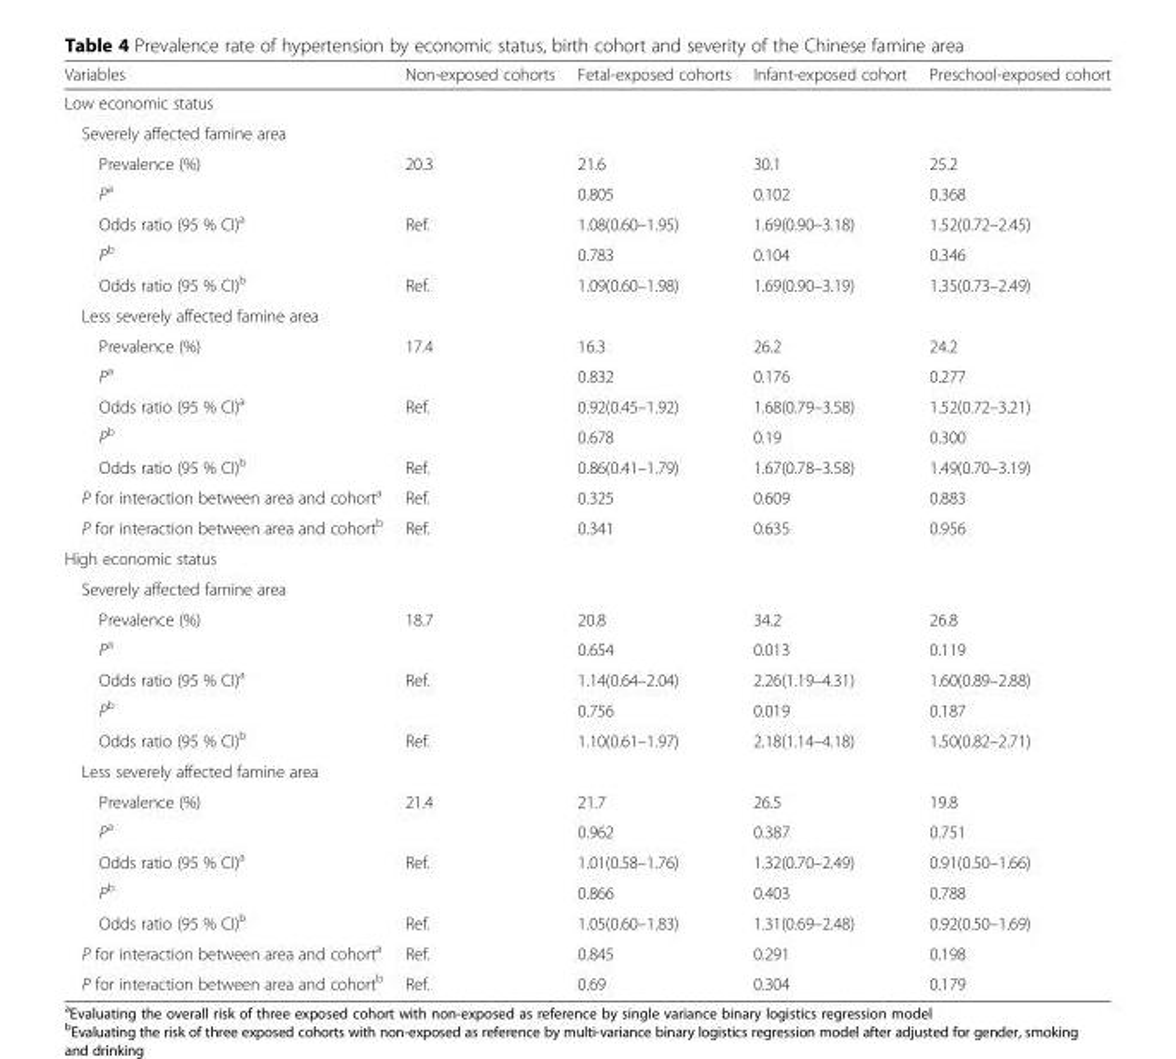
<table><thead><tr><td>Variables</td><td>Non-exposed cohorts</td><td>Fetal-exposed cohorts</td><td>Infant-exposed cohort</td><td>Preschool-exposed cohort</td></tr></thead><tbody><tr><td colspan="5">Low economic status</td></tr><tr><td colspan="5">Severely affected famine area</td></tr><tr><td>Prevalence (%)</td><td>20.3</td><td>21.6</td><td>30.1</td><td>25.2</td></tr><tr><td>P<sup>a</sup></td><td></td><td>0.805</td><td>0.102</td><td>0.368</td></tr><tr><td>Odds ratio (95 % CI)<sup>a</sup></td><td>Ref.</td><td>1.08(0.60–1.95)</td><td>1.69(0.90–3.18)</td><td>1.52(0.72–2.45)</td></tr><tr><td>P<sup>b</sup></td><td></td><td>0.783</td><td>0.104</td><td>0.346</td></tr><tr><td>Odds ratio (95 % CI)<sup>b</sup></td><td>Ref.</td><td>1.09(0.60–1.98)</td><td>1.69(0.90–3.19)</td><td>1.35(0.73–2.49)</td></tr><tr><td colspan="5">Less severely affected famine area</td></tr><tr><td>Prevalence (%)</td><td>17.4</td><td>16.3</td><td>26.2</td><td>24.2</td></tr><tr><td>P<sup>a</sup></td><td></td><td>0.832</td><td>0.176</td><td>0.277</td></tr><tr><td>Odds ratio (95 % CI)<sup>a</sup></td><td>Ref.</td><td>0.92(0.45–1.92)</td><td>1.68(0.79–3.58)</td><td>1.52(0.72–3.21)</td></tr><tr><td>P<sup>b</sup></td><td></td><td>0.678</td><td>0.19</td><td>0.300</td></tr><tr><td>Odds ratio (95 % CI)<sup>b</sup></td><td>Ref.</td><td>0.86(0.41–1.79)</td><td>1.67(0.78–3.58)</td><td>1.49(0.70–3.19)</td></tr><tr><td>P for interaction between area and cohort<sup>a</sup></td><td>Ref.</td><td>0.325</td><td>0.609</td><td>0.883</td></tr><tr><td>P for interaction between area and cohort<sup>b</sup></td><td>Ref.</td><td>0.341</td><td>0.635</td><td>0.956</td></tr><tr><td colspan="5">High economic status</td></tr><tr><td colspan="5">Severely affected famine area</td></tr><tr><td>Prevalence (%)</td><td>18.7</td><td>20.8</td><td>34.2</td><td>26.8</td></tr><tr><td>P<sup>a</sup></td><td></td><td>0.654</td><td>0.013</td><td>0.119</td></tr><tr><td>Odds ratio (95 % CI)<sup>a</sup></td><td>Ref.</td><td>1.14(0.64–2.04)</td><td>2.26(1.19–4.31)</td><td>1.60(0.89–2.88)</td></tr><tr><td>P<sup>b</sup></td><td></td><td>0.756</td><td>0.019</td><td>0.187</td></tr><tr><td>Odds ratio (95 % CI)<sup>b</sup></td><td>Ref.</td><td>1.10(0.61–1.97)</td><td>2.18(1.14–4.18)</td><td>1.50(0.82–2.71)</td></tr><tr><td colspan="5">Less severely affected famine area</td></tr><tr><td>Prevalence (%)</td><td>21.4</td><td>21.7</td><td>26.5</td><td>19.8</td></tr><tr><td>P<sup>a</sup></td><td></td><td>0.962</td><td>0.387</td><td>0.751</td></tr><tr><td>Odds ratio (95 % CI)<sup>a</sup></td><td>Ref.</td><td>1.01(0.58–1.76)</td><td>1.32(0.70–2.49)</td><td>0.91(0.50–1.66)</td></tr><tr><td>P<sup>b</sup></td><td></td><td>0.866</td><td>0.403</td><td>0.788</td></tr><tr><td>Odds ratio (95 % CI)<sup>b</sup></td><td>Ref.</td><td>1.05(0.60–1.83)</td><td>1.31(0.69–2.48)</td><td>0.92(0.50–1.69)</td></tr><tr><td>P for interaction between area and cohort<sup>a</sup></td><td>Ref.</td><td>0.845</td><td>0.291</td><td>0.198</td></tr><tr><td>P for interaction between area and cohort<sup>b</sup></td><td>Ref.</td><td>0.69</td><td>0.304</td><td>0.179</td></tr></tbody></table>